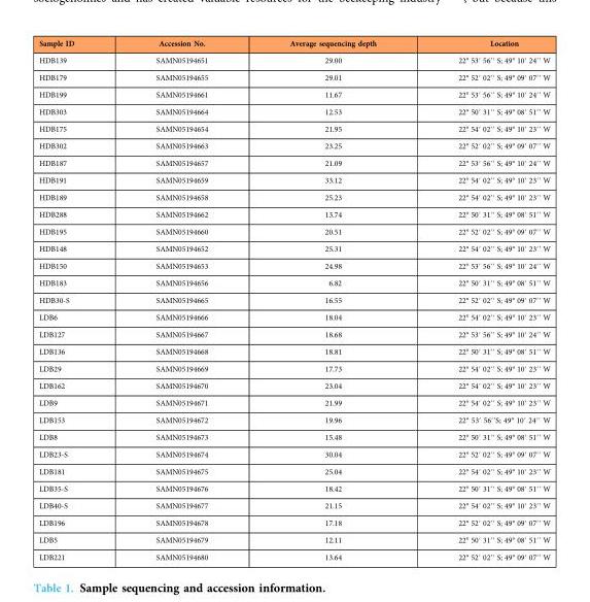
<table><thead><tr><td>Sample ID</td><td>Accession No.</td><td>Average sequencing depth</td><td>Location</td></tr></thead><tbody><tr><td>HDB139</td><td>SAMN05194651</td><td>29.00</td><td>22° 53′ 56′′ S; 49° 10′ 24′′ W</td></tr><tr><td>HDB179</td><td>SAMN05194655</td><td>29.01</td><td>22° 52′ 02′′ S; 49° 09′ 07′′ W</td></tr><tr><td>HDB199</td><td>SAMN05194661</td><td>11.67</td><td>22° 53′ 56′′ S; 49° 10′ 24′′ W</td></tr><tr><td>HDB303</td><td>SAMN05194664</td><td>12.53</td><td>22° 50′ 31′′ S; 49° 08′ 51′′ W</td></tr><tr><td>HDB175</td><td>SAMN05194654</td><td>21.95</td><td>22° 54′ 02′′ S; 49° 10′ 23′′ W</td></tr><tr><td>HDB302</td><td>SAMN05194663</td><td>23.25</td><td>22° 52′ 02′′ S; 49° 09′ 07′′ W</td></tr><tr><td>HDB187</td><td>SAMN05194657</td><td>21.09</td><td>22° 53′ 56′′ S; 49° 10′ 24′′ W</td></tr><tr><td>HDB191</td><td>SAMN05194659</td><td>33.12</td><td>22° 54′ 02′′ S; 49° 10′ 23′′ W</td></tr><tr><td>HDB189</td><td>SAMN05194658</td><td>25.23</td><td>22° 54′ 02′′ S; 49° 10′ 23′′ W</td></tr><tr><td>HDB288</td><td>SAMN05194662</td><td>13.74</td><td>22° 50′ 31′′ S; 49° 08′ 51′′ W</td></tr><tr><td>HDB195</td><td>SAMN05194660</td><td>20.51</td><td>22° 52′ 02′′ S; 49° 09′ 07′′ W</td></tr><tr><td>HDB148</td><td>SAMN05194652</td><td>25.31</td><td>22° 54′ 02′′ S; 49° 10′ 23′′ W</td></tr><tr><td>HDB150</td><td>SAMN05194653</td><td>24.98</td><td>22° 53′ 56′′ S; 49° 10′ 24′′ W</td></tr><tr><td>HDB183</td><td>SAMN05194656</td><td>6.82</td><td>22° 50′ 31′′ S; 49° 08′ 51′′ W</td></tr><tr><td>HDB30-S</td><td>SAMN05194665</td><td>16.55</td><td>22° 52′ 02′′ S; 49° 09′ 07′′ W</td></tr><tr><td>LDB6</td><td>SAMN05194666</td><td>18.04</td><td>22° 54′ 02′′ S; 49° 10′ 23′′ W</td></tr><tr><td>LDB127</td><td>SAMN05194667</td><td>18.68</td><td>22° 53′ 56′′ S; 49° 10′ 24′′ W</td></tr><tr><td>LDB136</td><td>SAMN05194668</td><td>18.81</td><td>22° 50′ 31′′ S; 49° 08′ 51′′ W</td></tr><tr><td>LDB29</td><td>SAMN05194669</td><td>17.73</td><td>22° 54′ 02′′ S; 49° 10′ 23′′ W</td></tr><tr><td>LDB162</td><td>SAMN05194670</td><td>23.04</td><td>22° 54′ 02′′ S; 49° 10′ 23′′ W</td></tr><tr><td>LDB9</td><td>SAMN05194671</td><td>21.99</td><td>22° 54′ 02′′ S; 49° 10′ 23′′ W</td></tr><tr><td>LDB153</td><td>SAMN05194672</td><td>19.96</td><td>22° 53′ 56′′S; 49° 10′ 24′′ W</td></tr><tr><td>LDB8</td><td>SAMN05194673</td><td>15.48</td><td>22° 50′ 31′′ S; 49° 08′ 51′′ W</td></tr><tr><td>LDB23-S</td><td>SAMN05194674</td><td>30.04</td><td>22° 52′ 02′′ S; 49° 09′ 07′′ W</td></tr><tr><td>LDB181</td><td>SAMN05194675</td><td>25.04</td><td>22° 54′ 02′′ S; 49° 10′ 23′′ W</td></tr><tr><td>LDB35-S</td><td>SAMN05194676</td><td>18.42</td><td>22° 50′ 31′′ S; 49° 08′ 51′′ W</td></tr><tr><td>LDB40-S</td><td>SAMN05194677</td><td>21.15</td><td>22° 54′ 02′′ S; 49° 10′ 23′′ W</td></tr><tr><td>LDB196</td><td>SAMN05194678</td><td>17.18</td><td>22° 52′ 02′′ S; 49° 09′ 07′′ W</td></tr><tr><td>LDB5</td><td>SAMN05194679</td><td>12.11</td><td>22° 50′ 31′′ S; 49° 08′ 51′′ W</td></tr><tr><td>LDB221</td><td>SAMN05194680</td><td>13.64</td><td>22° 52′ 02′′ S; 49° 09′ 07′′ W</td></tr></tbody></table>